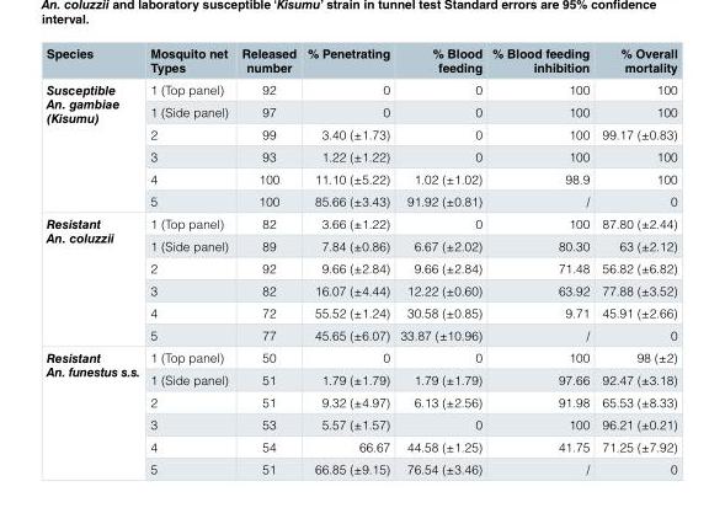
<table><thead><tr><td>Species</td><td>Mosquito net Types</td><td>Released number</td><td>% Penetrating</td><td>% Blood feeding</td><td>% Blood feeding inhibition</td><td>% Overall mortality</td></tr></thead><tbody><tr><td rowspan="6">Susceptible An. gambiae (Kisumu)</td><td>1 (Top panel)</td><td>92</td><td>0</td><td>0</td><td>100</td><td>100</td></tr><tr><td>1 (Side panel)</td><td>97</td><td>0</td><td>0</td><td>100</td><td>100</td></tr><tr><td>2</td><td>99</td><td>3.40 (±1.73)</td><td>0</td><td>100</td><td>99.17 (±0.83)</td></tr><tr><td>3</td><td>93</td><td>1.22 (±1.22)</td><td>0</td><td>100</td><td>100</td></tr><tr><td>4</td><td>100</td><td>11.10 (±5.22)</td><td>1.02 (±1.02)</td><td>98.9</td><td>100</td></tr><tr><td>5</td><td>100</td><td>85.66 (±3.43)</td><td>91.92 (±0.81)</td><td>/</td><td>0</td></tr><tr><td rowspan="6">Resistant An. coluzzii</td><td>1 (Top panel)</td><td>82</td><td>3.66 (±1.22)</td><td>0</td><td>100</td><td>87.80 (±2.44)</td></tr><tr><td>1 (Side panel)</td><td>89</td><td>7.84 (±0.86)</td><td>6.67 (±2.02)</td><td>80.30</td><td>63 (±2.12)</td></tr><tr><td>2</td><td>92</td><td>9.66 (±2.84)</td><td>9.66 (±2.84)</td><td>71.48</td><td>56.82 (±6.82)</td></tr><tr><td>3</td><td>82</td><td>16.07 (±4.44)</td><td>12.22 (±0.60)</td><td>63.92</td><td>77.88 (±3.52)</td></tr><tr><td>4</td><td>72</td><td>55.52 (±1.24)</td><td>30.58 (±0.85)</td><td>9.71</td><td>45.91 (±2.66)</td></tr><tr><td>5</td><td>77</td><td>45.65 (±6.07)</td><td>33.87 (±10.96)</td><td>/</td><td>0</td></tr><tr><td rowspan="6">Resistant An. funestus s.s.</td><td>1 (Top panel)</td><td>50</td><td>0</td><td>0</td><td>100</td><td>98 (±2)</td></tr><tr><td>1 (Side panel)</td><td>51</td><td>1.79 (±1.79)</td><td>1.79 (±1.79)</td><td>97.66</td><td>92.47 (±3.18)</td></tr><tr><td>2</td><td>51</td><td>9.32 (±4.97)</td><td>6.13 (±2.56)</td><td>91.98</td><td>65.53 (±8.33)</td></tr><tr><td>3</td><td>53</td><td>5.57 (±1.57)</td><td>0</td><td>100</td><td>96.21 (±0.21)</td></tr><tr><td>4</td><td>54</td><td>66.67</td><td>44.58 (±1.25)</td><td>41.75</td><td>71.25 (±7.92)</td></tr><tr><td>5</td><td>51</td><td>66.85 (±9.15)</td><td>76.54 (±3.46)</td><td>/</td><td>0</td></tr></tbody></table>